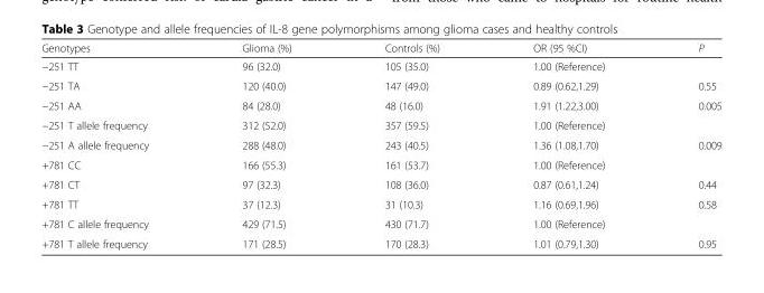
<table><thead><tr><td>Genotypes</td><td>Glioma (%)</td><td>Controls (%)</td><td>OR (95 %CI)</td><td>P</td></tr></thead><tbody><tr><td>−251 TT</td><td>96 (32.0)</td><td>105 (35.0)</td><td>1.00 (Reference)</td><td></td></tr><tr><td>−251 TA</td><td>120 (40.0)</td><td>147 (49.0)</td><td>0.89 (0.62,1.29)</td><td>0.55</td></tr><tr><td>−251 AA</td><td>84 (28.0)</td><td>48 (16.0)</td><td>1.91 (1.22,3.00)</td><td>0.005</td></tr><tr><td>−251 T allele frequency</td><td>312 (52.0)</td><td>357 (59.5)</td><td>1.00 (Reference)</td><td></td></tr><tr><td>−251 A allele frequency</td><td>288 (48.0)</td><td>243 (40.5)</td><td>1.36 (1.08,1.70)</td><td>0.009</td></tr><tr><td>+781 CC</td><td>166 (55.3)</td><td>161 (53.7)</td><td>1.00 (Reference)</td><td></td></tr><tr><td>+781 CT</td><td>97 (32.3)</td><td>108 (36.0)</td><td>0.87 (0.61,1.24)</td><td>0.44</td></tr><tr><td>+781 TT</td><td>37 (12.3)</td><td>31 (10.3)</td><td>1.16 (0.69,1.96)</td><td>0.58</td></tr><tr><td>+781 C allele frequency</td><td>429 (71.5)</td><td>430 (71.7)</td><td>1.00 (Reference)</td><td></td></tr><tr><td>+781 T allele frequency</td><td>171 (28.5)</td><td>170 (28.3)</td><td>1.01 (0.79,1.30)</td><td>0.95</td></tr></tbody></table>